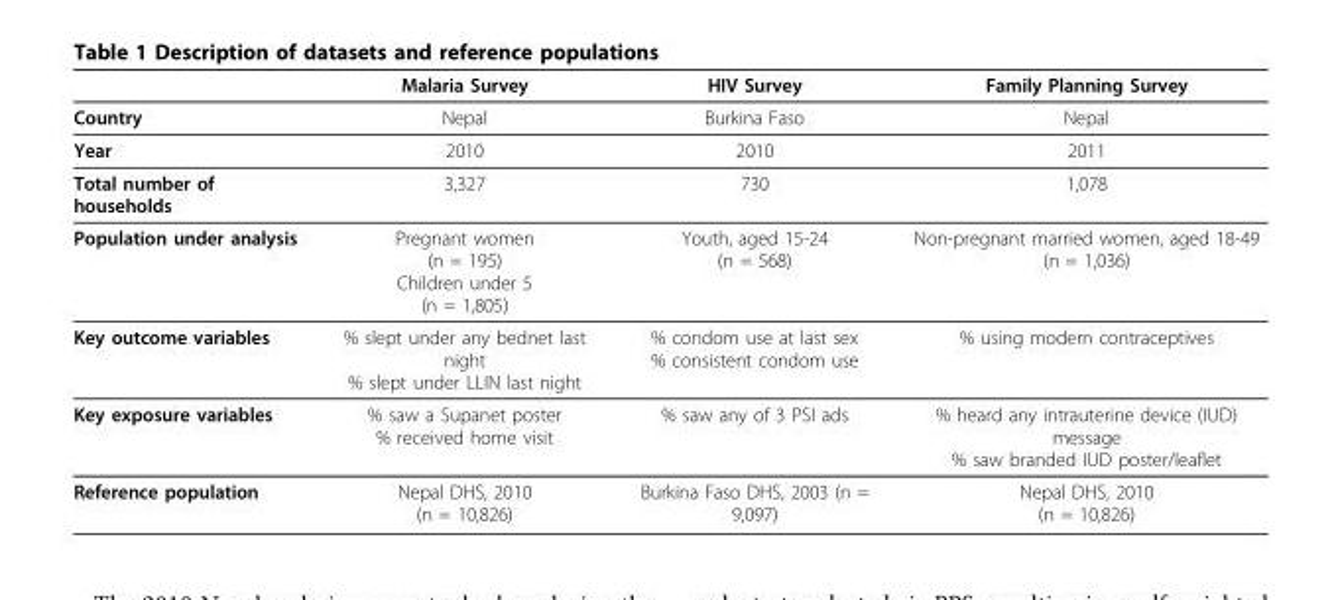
<table><thead><tr><td></td><td>Malaria Survey</td><td>HIV Survey</td><td>Family Planning Survey</td></tr></thead><tbody><tr><td>Country</td><td>Nepal</td><td>Burkina Faso</td><td>Nepal</td></tr><tr><td>Year</td><td>2010</td><td>2010</td><td>2011</td></tr><tr><td>Total number of households</td><td>3,327</td><td>730</td><td>1,078</td></tr><tr><td>Population under analysis</td><td>Pregnant women (n = 195) Children under 5 (n = 1,805)</td><td>Youth, aged 15-24 (n = 568)</td><td>Non-pregnant married women, aged 18-49 (n = 1,036)</td></tr><tr><td>Key outcome variables</td><td>% slept under any bednet last night % slept under LLIN last night</td><td>% condom use at last sex % consistent condom use</td><td>% using modern contraceptives</td></tr><tr><td>Key exposure variables</td><td>% saw a Supanet poster % received home visit</td><td>% saw any of 3 PSI ads</td><td>% heard any intrauterine device (IUD) message % saw branded IUD poster/leaflet</td></tr><tr><td>Reference population</td><td>Nepal DHS, 2010 (n = 10,826)</td><td>Burkina Faso DHS, 2003 (n = 9,097)</td><td>Nepal DHS, 2010 (n = 10,826)</td></tr></tbody></table>